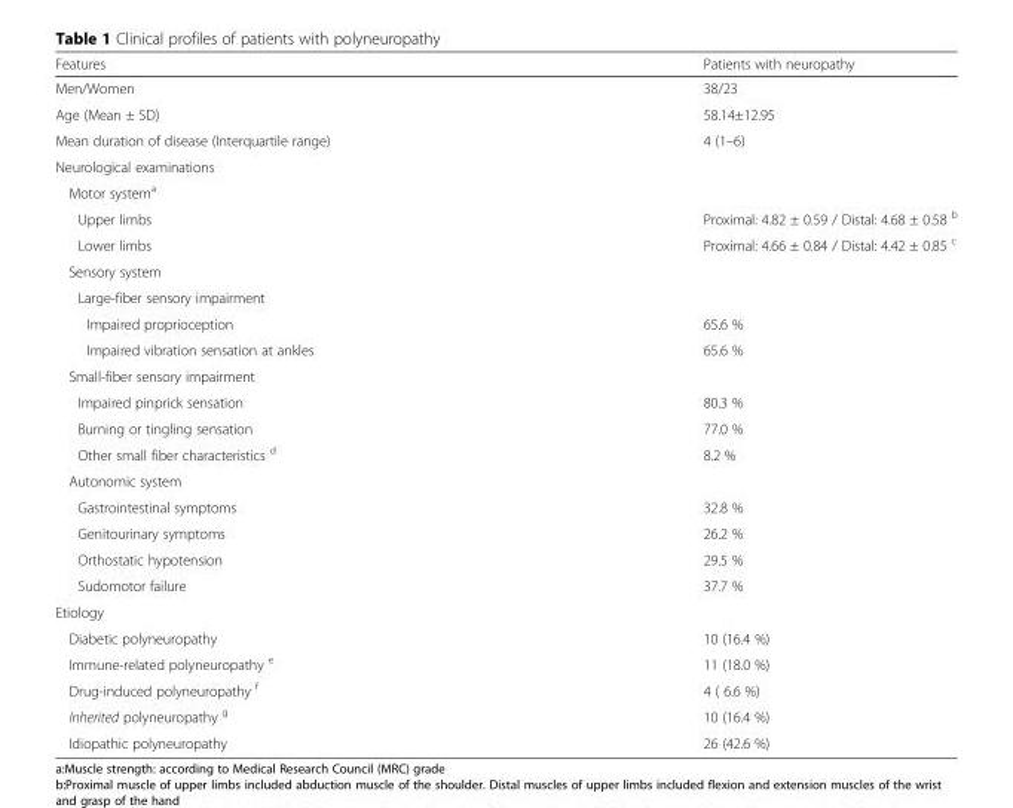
<table><thead><tr><td>Features</td><td>Patients with neuropathy</td></tr></thead><tbody><tr><td>Men/Women</td><td>38/23</td></tr><tr><td>Age (Mean ± SD)</td><td>58.14±12.95</td></tr><tr><td>Mean duration of disease (Interquartile range)</td><td>4 (1–6)</td></tr><tr><td colspan="2">Neurological examinations</td></tr><tr><td colspan="2">Motor system<sup>a</sup></td></tr><tr><td>Upper limbs</td><td>Proximal: 4.82 ± 0.59 / Distal: 4.68 ± 0.58 <sup>b</sup></td></tr><tr><td>Lower limbs</td><td>Proximal: 4.66 ± 0.84 / Distal: 4.42 ± 0.85 <sup>c</sup></td></tr><tr><td colspan="2">Sensory system</td></tr><tr><td colspan="2">Large-fiber sensory impairment</td></tr><tr><td>Impaired proprioception</td><td>65.6 %</td></tr><tr><td>Impaired vibration sensation at ankles</td><td>65.6 %</td></tr><tr><td colspan="2">Small-fiber sensory impairment</td></tr><tr><td>Impaired pinprick sensation</td><td>80.3 %</td></tr><tr><td>Burning or tingling sensation</td><td>77.0 %</td></tr><tr><td>Other small fiber characteristics <sup>d</sup></td><td>8.2 %</td></tr><tr><td colspan="2">Autonomic system</td></tr><tr><td>Gastrointestinal symptoms</td><td>32.8 %</td></tr><tr><td>Genitourinary symptoms</td><td>26.2 %</td></tr><tr><td>Orthostatic hypotension</td><td>29.5 %</td></tr><tr><td>Sudomotor failure</td><td>37.7 %</td></tr><tr><td colspan="2">Etiology</td></tr><tr><td>Diabetic polyneuropathy</td><td>10 (16.4 %)</td></tr><tr><td>Immune-related polyneuropathy <sup>e</sup></td><td>11 (18.0 %)</td></tr><tr><td>Drug-induced polyneuropathy <sup>f</sup></td><td>4 ( 6.6 %)</td></tr><tr><td>Inherited polyneuropathy <sup>g</sup></td><td>10 (16.4 %)</td></tr><tr><td>Idiopathic polyneuropathy</td><td>26 (42.6 %)</td></tr></tbody></table>